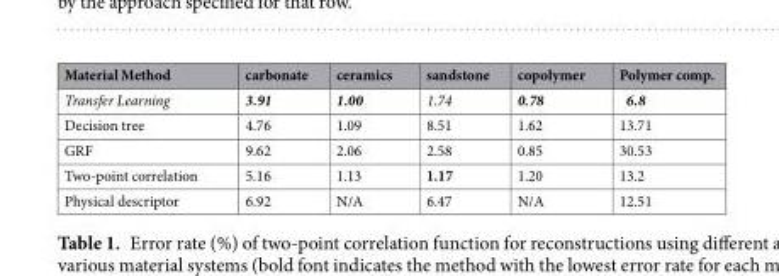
<table><thead><tr><td>Material Method</td><td>carbonate</td><td>ceramics</td><td>sandstone</td><td>copolymer</td><td>Polymer comp.</td></tr></thead><tbody><tr><td>Transfer Learning</td><td>3.91</td><td>1.00</td><td>1.74</td><td>0.78</td><td>6.8</td></tr><tr><td>Decision tree</td><td>4.76</td><td>1.09</td><td>8.51</td><td>1.62</td><td>13.71</td></tr><tr><td>GRF</td><td>9.62</td><td>2.06</td><td>2.58</td><td>0.85</td><td>30.53</td></tr><tr><td>Two-point correlation</td><td>5.16</td><td>1.13</td><td>1.17</td><td>1.20</td><td>13.2</td></tr><tr><td>Physical descriptor</td><td>6.92</td><td>N/A</td><td>6.47</td><td>N/A</td><td>12.51</td></tr></tbody></table>